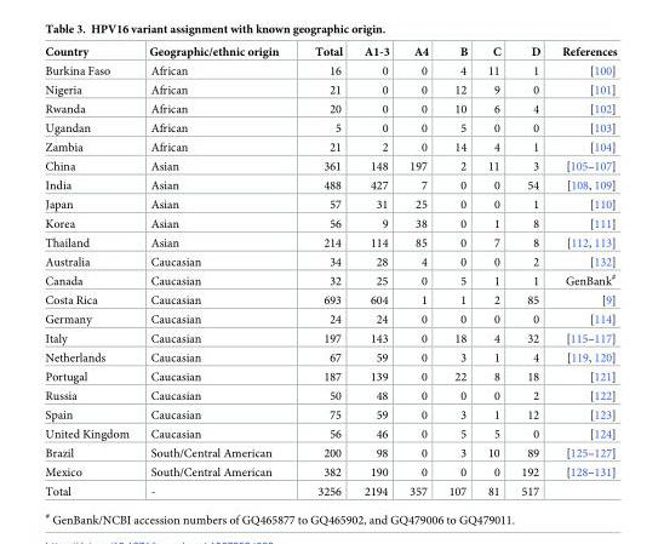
<table><thead><tr><td>Country</td><td>Geographic/ethnic origin</td><td>Total</td><td>A1-3</td><td>A4</td><td>B</td><td>C</td><td>D</td><td>References</td></tr></thead><tbody><tr><td>Burkina Faso</td><td>African</td><td>16</td><td>0</td><td>0</td><td>4</td><td>11</td><td>1</td><td>[100]</td></tr><tr><td>Nigeria</td><td>African</td><td>21</td><td>0</td><td>0</td><td>12</td><td>9</td><td>0</td><td>[101]</td></tr><tr><td>Rwanda</td><td>African</td><td>20</td><td>0</td><td>0</td><td>10</td><td>6</td><td>4</td><td>[102]</td></tr><tr><td>Ugandan</td><td>African</td><td>5</td><td>0</td><td>0</td><td>5</td><td>0</td><td>0</td><td>[103]</td></tr><tr><td>Zambia</td><td>African</td><td>21</td><td>2</td><td>0</td><td>14</td><td>4</td><td>1</td><td>[104]</td></tr><tr><td>China</td><td>Asian</td><td>361</td><td>148</td><td>197</td><td>2</td><td>11</td><td>3</td><td>[105–107]</td></tr><tr><td>India</td><td>Asian</td><td>488</td><td>427</td><td>7</td><td>0</td><td>0</td><td>54</td><td>[108, 109]</td></tr><tr><td>Japan</td><td>Asian</td><td>57</td><td>31</td><td>25</td><td>0</td><td>0</td><td>1</td><td>[110]</td></tr><tr><td>Korea</td><td>Asian</td><td>56</td><td>9</td><td>38</td><td>0</td><td>1</td><td>8</td><td>[111]</td></tr><tr><td>Thailand</td><td>Asian</td><td>214</td><td>114</td><td>85</td><td>0</td><td>7</td><td>8</td><td>[112, 113]</td></tr><tr><td>Australia</td><td>Caucasian</td><td>34</td><td>28</td><td>4</td><td>0</td><td>0</td><td>2</td><td>[132]</td></tr><tr><td>Canada</td><td>Caucasian</td><td>32</td><td>25</td><td>0</td><td>5</td><td>1</td><td>1</td><td>GenBank<sup>#</sup></td></tr><tr><td>Costa Rica</td><td>Caucasian</td><td>693</td><td>604</td><td>1</td><td>1</td><td>2</td><td>85</td><td>[9]</td></tr><tr><td>Germany</td><td>Caucasian</td><td>24</td><td>24</td><td>0</td><td>0</td><td>0</td><td>0</td><td>[114]</td></tr><tr><td>Italy</td><td>Caucasian</td><td>197</td><td>143</td><td>0</td><td>18</td><td>4</td><td>32</td><td>[115–117]</td></tr><tr><td>Netherlands</td><td>Caucasian</td><td>67</td><td>59</td><td>0</td><td>3</td><td>1</td><td>4</td><td>[119, 120]</td></tr><tr><td>Portugal</td><td>Caucasian</td><td>187</td><td>139</td><td>0</td><td>22</td><td>8</td><td>18</td><td>[121]</td></tr><tr><td>Russia</td><td>Caucasian</td><td>50</td><td>48</td><td>0</td><td>0</td><td>0</td><td>2</td><td>[122]</td></tr><tr><td>Spain</td><td>Caucasian</td><td>75</td><td>59</td><td>0</td><td>3</td><td>1</td><td>12</td><td>[123]</td></tr><tr><td>United Kingdom</td><td>Caucasian</td><td>56</td><td>46</td><td>0</td><td>5</td><td>5</td><td>0</td><td>[124]</td></tr><tr><td>Brazil</td><td>South/Central American</td><td>200</td><td>98</td><td>0</td><td>3</td><td>10</td><td>89</td><td>[125–127]</td></tr><tr><td>Mexico</td><td>South/Central American</td><td>382</td><td>190</td><td>0</td><td>0</td><td>0</td><td>192</td><td>[128–131]</td></tr><tr><td>Total</td><td>-</td><td>3256</td><td>2194</td><td>357</td><td>107</td><td>81</td><td>517</td><td></td></tr></tbody></table>